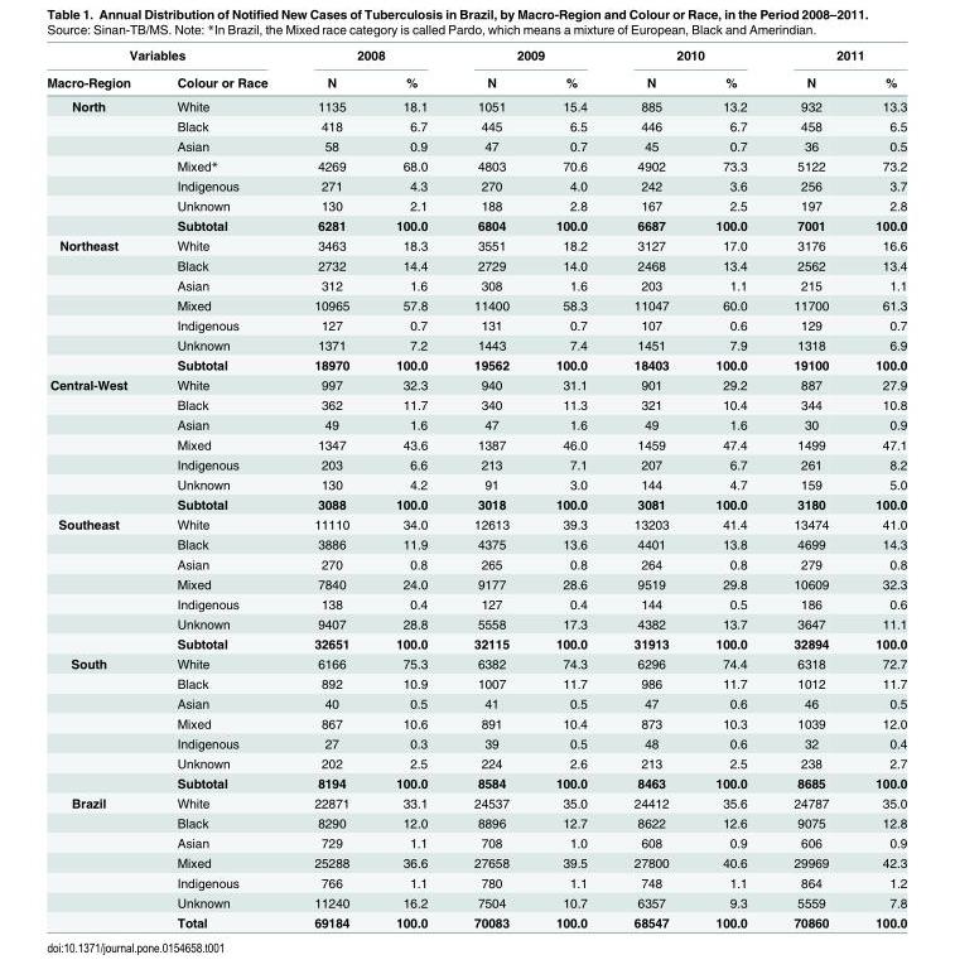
<table><thead><tr><td colspan="2">Variables</td><td colspan="2">2008</td><td colspan="2">2009</td><td colspan="2">2010</td><td colspan="2">2011</td></tr><tr><td>Macro-Region</td><td>Colour or Race</td><td>N</td><td>%</td><td>N</td><td>%</td><td>N</td><td>%</td><td>N</td><td>%</td></tr></thead><tbody><tr><td rowspan="7">North</td><td>White</td><td>1135</td><td>18.1</td><td>1051</td><td>15.4</td><td>885</td><td>13.2</td><td>932</td><td>13.3</td></tr><tr><td>Black</td><td>418</td><td>6.7</td><td>445</td><td>6.5</td><td>446</td><td>6.7</td><td>458</td><td>6.5</td></tr><tr><td>Asian</td><td>58</td><td>0.9</td><td>47</td><td>0.7</td><td>45</td><td>0.7</td><td>36</td><td>0.5</td></tr><tr><td>Mixed*</td><td>4269</td><td>68.0</td><td>4803</td><td>70.6</td><td>4902</td><td>73.3</td><td>5122</td><td>73.2</td></tr><tr><td>Indigenous</td><td>271</td><td>4.3</td><td>270</td><td>4.0</td><td>242</td><td>3.6</td><td>256</td><td>3.7</td></tr><tr><td>Unknown</td><td>130</td><td>2.1</td><td>188</td><td>2.8</td><td>167</td><td>2.5</td><td>197</td><td>2.8</td></tr><tr><td>Subtotal</td><td>6281</td><td>100.0</td><td>6804</td><td>100.0</td><td>6687</td><td>100.0</td><td>7001</td><td>100.0</td></tr><tr><td rowspan="7">Northeast</td><td>White</td><td>3463</td><td>18.3</td><td>3551</td><td>18.2</td><td>3127</td><td>17.0</td><td>3176</td><td>16.6</td></tr><tr><td>Black</td><td>2732</td><td>14.4</td><td>2729</td><td>14.0</td><td>2468</td><td>13.4</td><td>2562</td><td>13.4</td></tr><tr><td>Asian</td><td>312</td><td>1.6</td><td>308</td><td>1.6</td><td>203</td><td>1.1</td><td>215</td><td>1.1</td></tr><tr><td>Mixed</td><td>10965</td><td>57.8</td><td>11400</td><td>58.3</td><td>11047</td><td>60.0</td><td>11700</td><td>61.3</td></tr><tr><td>Indigenous</td><td>127</td><td>0.7</td><td>131</td><td>0.7</td><td>107</td><td>0.6</td><td>129</td><td>0.7</td></tr><tr><td>Unknown</td><td>1371</td><td>7.2</td><td>1443</td><td>7.4</td><td>1451</td><td>7.9</td><td>1318</td><td>6.9</td></tr><tr><td>Subtotal</td><td>18970</td><td>100.0</td><td>19562</td><td>100.0</td><td>18403</td><td>100.0</td><td>19100</td><td>100.0</td></tr><tr><td rowspan="7">Central-West</td><td>White</td><td>997</td><td>32.3</td><td>940</td><td>31.1</td><td>901</td><td>29.2</td><td>887</td><td>27.9</td></tr><tr><td>Black</td><td>362</td><td>11.7</td><td>340</td><td>11.3</td><td>321</td><td>10.4</td><td>344</td><td>10.8</td></tr><tr><td>Asian</td><td>49</td><td>1.6</td><td>47</td><td>1.6</td><td>49</td><td>1.6</td><td>30</td><td>0.9</td></tr><tr><td>Mixed</td><td>1347</td><td>43.6</td><td>1387</td><td>46.0</td><td>1459</td><td>47.4</td><td>1499</td><td>47.1</td></tr><tr><td>Indigenous</td><td>203</td><td>6.6</td><td>213</td><td>7.1</td><td>207</td><td>6.7</td><td>261</td><td>8.2</td></tr><tr><td>Unknown</td><td>130</td><td>4.2</td><td>91</td><td>3.0</td><td>144</td><td>4.7</td><td>159</td><td>5.0</td></tr><tr><td>Subtotal</td><td>3088</td><td>100.0</td><td>3018</td><td>100.0</td><td>3081</td><td>100.0</td><td>3180</td><td>100.0</td></tr><tr><td rowspan="7">Southeast</td><td>White</td><td>11110</td><td>34.0</td><td>12613</td><td>39.3</td><td>13203</td><td>41.4</td><td>13474</td><td>41.0</td></tr><tr><td>Black</td><td>3886</td><td>11.9</td><td>4375</td><td>13.6</td><td>4401</td><td>13.8</td><td>4699</td><td>14.3</td></tr><tr><td>Asian</td><td>270</td><td>0.8</td><td>265</td><td>0.8</td><td>264</td><td>0.8</td><td>279</td><td>0.8</td></tr><tr><td>Mixed</td><td>7840</td><td>24.0</td><td>9177</td><td>28.6</td><td>9519</td><td>29.8</td><td>10609</td><td>32.3</td></tr><tr><td>Indigenous</td><td>138</td><td>0.4</td><td>127</td><td>0.4</td><td>144</td><td>0.5</td><td>186</td><td>0.6</td></tr><tr><td>Unknown</td><td>9407</td><td>28.8</td><td>5558</td><td>17.3</td><td>4382</td><td>13.7</td><td>3647</td><td>11.1</td></tr><tr><td>Subtotal</td><td>32651</td><td>100.0</td><td>32115</td><td>100.0</td><td>31913</td><td>100.0</td><td>32894</td><td>100.0</td></tr><tr><td rowspan="7">South</td><td>White</td><td>6166</td><td>75.3</td><td>6382</td><td>74.3</td><td>6296</td><td>74.4</td><td>6318</td><td>72.7</td></tr><tr><td>Black</td><td>892</td><td>10.9</td><td>1007</td><td>11.7</td><td>986</td><td>11.7</td><td>1012</td><td>11.7</td></tr><tr><td>Asian</td><td>40</td><td>0.5</td><td>41</td><td>0.5</td><td>47</td><td>0.6</td><td>46</td><td>0.5</td></tr><tr><td>Mixed</td><td>867</td><td>10.6</td><td>891</td><td>10.4</td><td>873</td><td>10.3</td><td>1039</td><td>12.0</td></tr><tr><td>Indigenous</td><td>27</td><td>0.3</td><td>39</td><td>0.5</td><td>48</td><td>0.6</td><td>32</td><td>0.4</td></tr><tr><td>Unknown</td><td>202</td><td>2.5</td><td>224</td><td>2.6</td><td>213</td><td>2.5</td><td>238</td><td>2.7</td></tr><tr><td>Subtotal</td><td>8194</td><td>100.0</td><td>8584</td><td>100.0</td><td>8463</td><td>100.0</td><td>8685</td><td>100.0</td></tr><tr><td rowspan="7">Brazil</td><td>White</td><td>22871</td><td>33.1</td><td>24537</td><td>35.0</td><td>24412</td><td>35.6</td><td>24787</td><td>35.0</td></tr><tr><td>Black</td><td>8290</td><td>12.0</td><td>8896</td><td>12.7</td><td>8622</td><td>12.6</td><td>9075</td><td>12.8</td></tr><tr><td>Asian</td><td>729</td><td>1.1</td><td>708</td><td>1.0</td><td>608</td><td>0.9</td><td>606</td><td>0.9</td></tr><tr><td>Mixed</td><td>25288</td><td>36.6</td><td>27658</td><td>39.5</td><td>27800</td><td>40.6</td><td>29969</td><td>42.3</td></tr><tr><td>Indigenous</td><td>766</td><td>1.1</td><td>780</td><td>1.1</td><td>748</td><td>1.1</td><td>864</td><td>1.2</td></tr><tr><td>Unknown</td><td>11240</td><td>16.2</td><td>7504</td><td>10.7</td><td>6357</td><td>9.3</td><td>5559</td><td>7.8</td></tr><tr><td>Total</td><td>69184</td><td>100.0</td><td>70083</td><td>100.0</td><td>68547</td><td>100.0</td><td>70860</td><td>100.0</td></tr></tbody></table>